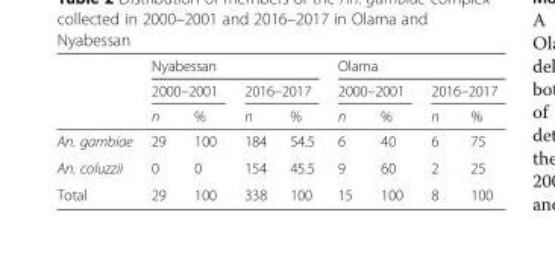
<table><thead><tr><td rowspan="3"></td><td colspan="4">Nyabessan</td><td colspan="4">Olama</td></tr><tr><td colspan="2">2000–2001</td><td colspan="2">2016–2017</td><td colspan="2">2000–2001</td><td colspan="2">2016–2017</td></tr><tr><td>n</td><td>%</td><td>n</td><td>%</td><td>n</td><td>%</td><td>n</td><td>%</td></tr></thead><tbody><tr><td>An. gambiae</td><td>29</td><td>100</td><td>184</td><td>54.5</td><td>6</td><td>40</td><td>6</td><td>75</td></tr><tr><td>An. coluzzii</td><td>0</td><td>0</td><td>154</td><td>45.5</td><td>9</td><td>60</td><td>2</td><td>25</td></tr><tr><td>Total</td><td>29</td><td>100</td><td>338</td><td>100</td><td>15</td><td>100</td><td>8</td><td>100</td></tr></tbody></table>